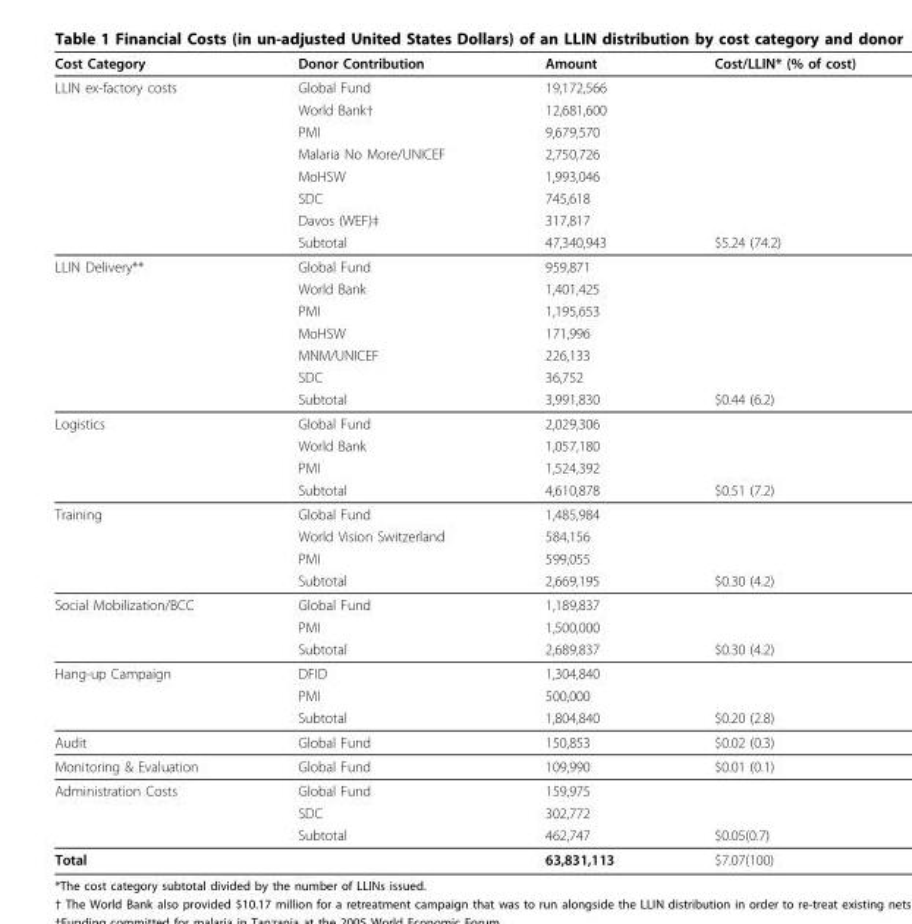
<table><thead><tr><td>Cost Category</td><td>Donor Contribution</td><td>Amount</td><td>Cost/LLIN* (% of cost)</td></tr></thead><tbody><tr><td rowspan="8">LLIN ex-factory costs</td><td>Global Fund</td><td>19,172,566</td><td></td></tr><tr><td>World Bank†</td><td>12,681,600</td><td></td></tr><tr><td>PMI</td><td>9,679,570</td><td></td></tr><tr><td>Malaria No More/UNICEF</td><td>2,750,726</td><td></td></tr><tr><td>MoHSW</td><td>1,993,046</td><td></td></tr><tr><td>SDC</td><td>745,618</td><td></td></tr><tr><td>Davos (WEF)‡</td><td>317,817</td><td></td></tr><tr><td>Subtotal</td><td>47,340,943</td><td>$5.24 (74.2)</td></tr><tr><td rowspan="7">LLIN Delivery**</td><td>Global Fund</td><td>959,871</td><td></td></tr><tr><td>World Bank</td><td>1,401,425</td><td></td></tr><tr><td>PMI</td><td>1,195,653</td><td></td></tr><tr><td>MoHSW</td><td>171,996</td><td></td></tr><tr><td>MNM/UNICEF</td><td>226,133</td><td></td></tr><tr><td>SDC</td><td>36,752</td><td></td></tr><tr><td>Subtotal</td><td>3,991,830</td><td>$0.44 (6.2)</td></tr><tr><td rowspan="4">Logistics</td><td>Global Fund</td><td>2,029,306</td><td></td></tr><tr><td>World Bank</td><td>1,057,180</td><td></td></tr><tr><td>PMI</td><td>1,524,392</td><td></td></tr><tr><td>Subtotal</td><td>4,610,878</td><td>$0.51 (7.2)</td></tr><tr><td rowspan="4">Training</td><td>Global Fund</td><td>1,485,984</td><td></td></tr><tr><td>World Vision Switzerland</td><td>584,156</td><td></td></tr><tr><td>PMI</td><td>599,055</td><td></td></tr><tr><td>Subtotal</td><td>2,669,195</td><td>$0.30 (4.2)</td></tr><tr><td rowspan="3">Social Mobilization/BCC</td><td>Global Fund</td><td>1,189,837</td><td></td></tr><tr><td>PMI</td><td>1,500,000</td><td></td></tr><tr><td>Subtotal</td><td>2,689,837</td><td>$0.30 (4.2)</td></tr><tr><td rowspan="3">Hang-up Campaign</td><td>DFID</td><td>1,304,840</td><td></td></tr><tr><td>PMI</td><td>500,000</td><td></td></tr><tr><td>Subtotal</td><td>1,804,840</td><td>$0.20 (2.8)</td></tr><tr><td>Audit</td><td>Global Fund</td><td>150,853</td><td>$0.02 (0.3)</td></tr><tr><td>Monitoring &amp; Evaluation</td><td>Global Fund</td><td>109,990</td><td>$0.01 (0.1)</td></tr><tr><td rowspan="3">Administration Costs</td><td>Global Fund</td><td>159,975</td><td></td></tr><tr><td>SDC</td><td>302,772</td><td></td></tr><tr><td>Subtotal</td><td>462,747</td><td>$0.05(0.7)</td></tr><tr><td>Total</td><td></td><td>63,831,113</td><td>$7.07(100)</td></tr></tbody></table>